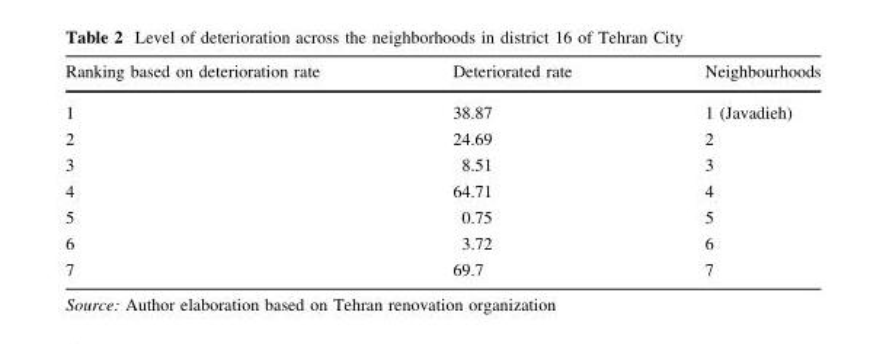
<table><thead><tr><td>Ranking based on deterioration rate</td><td>Deteriorated rate</td><td>Neighbourhoods</td></tr></thead><tbody><tr><td>1</td><td>38.87</td><td>1 (Javadieh)</td></tr><tr><td>2</td><td>24.69</td><td>2</td></tr><tr><td>3</td><td>8.51</td><td>3</td></tr><tr><td>4</td><td>64.71</td><td>4</td></tr><tr><td>5</td><td>0.75</td><td>5</td></tr><tr><td>6</td><td>3.72</td><td>6</td></tr><tr><td>7</td><td>69.7</td><td>7</td></tr></tbody></table>